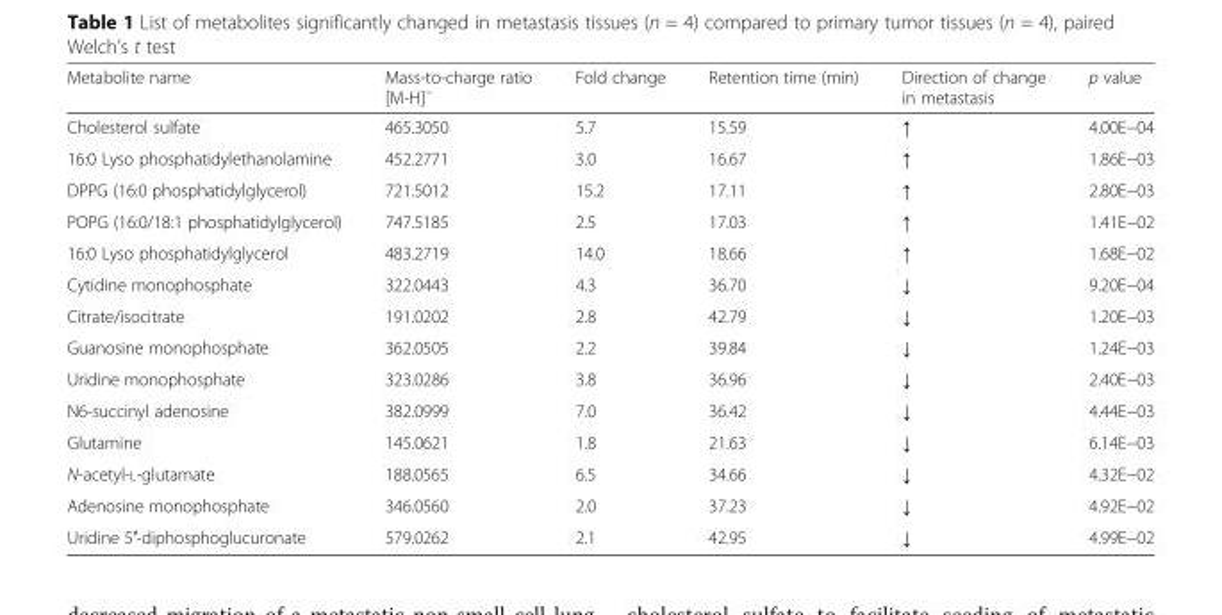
<table><thead><tr><td>Metabolite name</td><td>Mass-to-charge ratio [M-H]<sup>−</sup></td><td>Fold change</td><td>Retention time (min)</td><td>Direction of change in metastasis</td><td>p value</td></tr></thead><tbody><tr><td>Cholesterol sulfate</td><td>465.3050</td><td>5.7</td><td>15.59</td><td>↑</td><td>4.00E−04</td></tr><tr><td>16:0 Lyso phosphatidylethanolamine</td><td>452.2771</td><td>3.0</td><td>16.67</td><td>↑</td><td>1.86E−03</td></tr><tr><td>DPPG (16:0 phosphatidylglycerol)</td><td>721.5012</td><td>15.2</td><td>17.11</td><td>↑</td><td>2.80E−03</td></tr><tr><td>POPG (16:0/18:1 phosphatidylglycerol)</td><td>747.5185</td><td>2.5</td><td>17.03</td><td>↑</td><td>1.41E−02</td></tr><tr><td>16:0 Lyso phosphatidylglycerol</td><td>483.2719</td><td>14.0</td><td>18.66</td><td>↑</td><td>1.68E−02</td></tr><tr><td>Cytidine monophosphate</td><td>322.0443</td><td>4.3</td><td>36.70</td><td>↓</td><td>9.20E−04</td></tr><tr><td>Citrate/isocitrate</td><td>191.0202</td><td>2.8</td><td>42.79</td><td>↓</td><td>1.20E−03</td></tr><tr><td>Guanosine monophosphate</td><td>362.0505</td><td>2.2</td><td>39.84</td><td>↓</td><td>1.24E−03</td></tr><tr><td>Uridine monophosphate</td><td>323.0286</td><td>3.8</td><td>36.96</td><td>↓</td><td>2.40E−03</td></tr><tr><td>N6-succinyl adenosine</td><td>382.0999</td><td>7.0</td><td>36.42</td><td>↓</td><td>4.44E−03</td></tr><tr><td>Glutamine</td><td>145.0621</td><td>1.8</td><td>21.63</td><td>↓</td><td>6.14E−03</td></tr><tr><td>N-acetyl-L-glutamate</td><td>188.0565</td><td>6.5</td><td>34.66</td><td>↓</td><td>4.32E−02</td></tr><tr><td>Adenosine monophosphate</td><td>346.0560</td><td>2.0</td><td>37.23</td><td>↓</td><td>4.92E−02</td></tr><tr><td>Uridine 5′-diphosphoglucuronate</td><td>579.0262</td><td>2.1</td><td>42.95</td><td>↓</td><td>4.99E−02</td></tr></tbody></table>